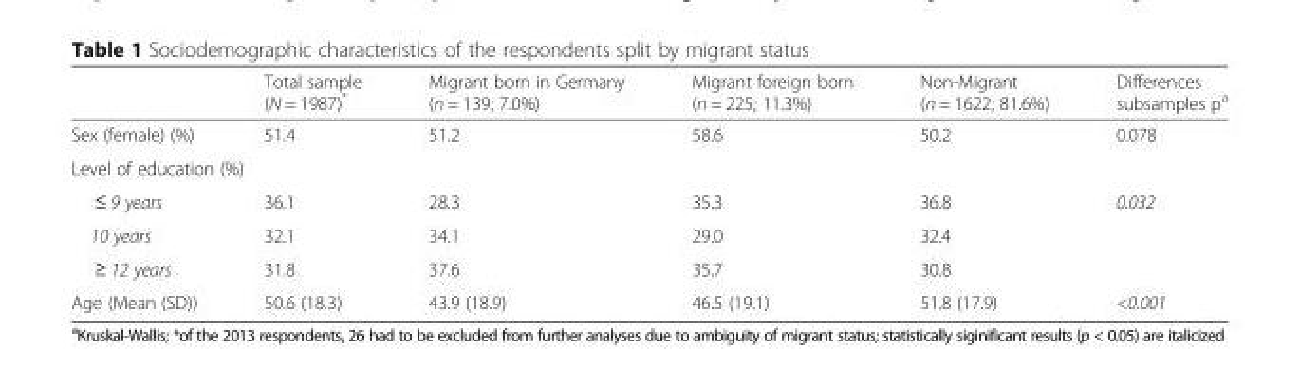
<table><thead><tr><td></td><td>Total sample (N = 1987)*</td><td>Migrant born in Germany (n = 139; 7.0%)</td><td>Migrant foreign born (n = 225; 11.3%)</td><td>Non-Migrant (n = 1622; 81.6%)</td><td>Differences subsamples p<sup>a</sup></td></tr></thead><tbody><tr><td>Sex (female) (%)</td><td>51.4</td><td>51.2</td><td>58.6</td><td>50.2</td><td>0.078</td></tr><tr><td colspan="6">Level of education (%)</td></tr><tr><td>≤ 9 years</td><td>36.1</td><td>28.3</td><td>35.3</td><td>36.8</td><td rowspan="3">0.032</td></tr><tr><td>10 years</td><td>32.1</td><td>34.1</td><td>29.0</td><td>32.4</td></tr><tr><td>≥ 12 years</td><td>31.8</td><td>37.6</td><td>35.7</td><td>30.8</td></tr><tr><td>Age (Mean (SD))</td><td>50.6 (18.3)</td><td>43.9 (18.9)</td><td>46.5 (19.1)</td><td>51.8 (17.9)</td><td>&lt;0.001</td></tr></tbody></table>